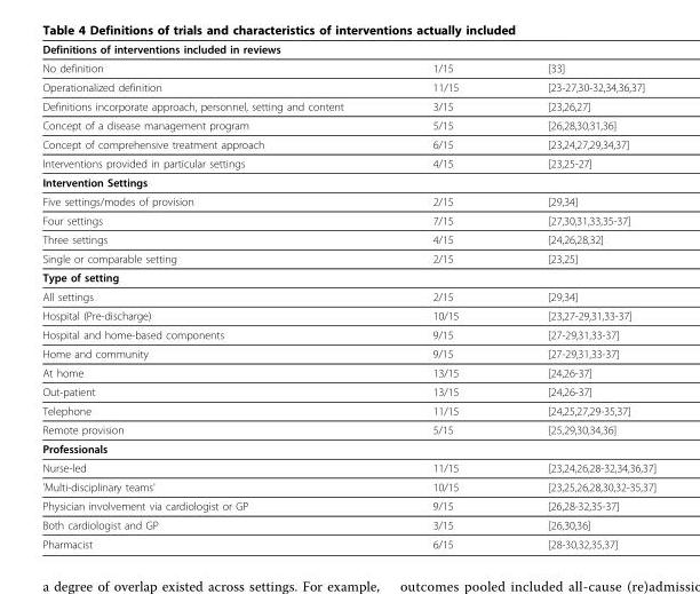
<table><thead><tr><td>Definitions of interventions included in reviews</td><td></td><td></td></tr></thead><tbody><tr><td>No definition</td><td>1/15</td><td>[33]</td></tr><tr><td>Operationalized definition</td><td>11/15</td><td>[23-27,30-32,34,36,37]</td></tr><tr><td>Definitions incorporate approach, personnel, setting and content</td><td>3/15</td><td>[23,26,27]</td></tr><tr><td>Concept of a disease management program</td><td>5/15</td><td>[26,28,30,31,36]</td></tr><tr><td>Concept of comprehensive treatment approach</td><td>6/15</td><td>[23,24,27,29,34,37]</td></tr><tr><td>Interventions provided in particular settings</td><td>4/15</td><td>[23,25-27]</td></tr><tr><td colspan="3">Intervention Settings</td></tr><tr><td>Five settings/modes of provision</td><td>2/15</td><td>[29,34]</td></tr><tr><td>Four settings</td><td>7/15</td><td>[27,30,31,33,35-37]</td></tr><tr><td>Three settings</td><td>4/15</td><td>[24,26,28,32]</td></tr><tr><td>Single or comparable setting</td><td>2/15</td><td>[23,25]</td></tr><tr><td colspan="3">Type of setting</td></tr><tr><td>All settings</td><td>2/15</td><td>[29,34]</td></tr><tr><td>Hospital (Pre-discharge)</td><td>10/15</td><td>[23,27-29,31,33-37]</td></tr><tr><td>Hospital and home-based components</td><td>9/15</td><td>[27-29,31,33-37]</td></tr><tr><td>Home and community</td><td>9/15</td><td>[27-29,31,33-37]</td></tr><tr><td>At home</td><td>13/15</td><td>[24,26-37]</td></tr><tr><td>Out-patient</td><td>13/15</td><td>[24,26-37]</td></tr><tr><td>Telephone</td><td>11/15</td><td>[24,25,27,29-35,37]</td></tr><tr><td>Remote provision</td><td>5/15</td><td>[25,29,30,34,36]</td></tr><tr><td colspan="3">Professionals</td></tr><tr><td>Nurse-led</td><td>11/15</td><td>[23,24,26,28-32,34,36,37]</td></tr><tr><td>’Multi-disciplinary teams’</td><td>10/15</td><td>[23,25,26,28,30,32-35,37]</td></tr><tr><td>Physician involvement via cardiologist or GP</td><td>9/15</td><td>[26,28-32,35-37]</td></tr><tr><td>Both cardiologist and GP</td><td>3/15</td><td>[26,30,36]</td></tr><tr><td>Pharmacist</td><td>6/15</td><td>[28-30,32,35,37]</td></tr></tbody></table>